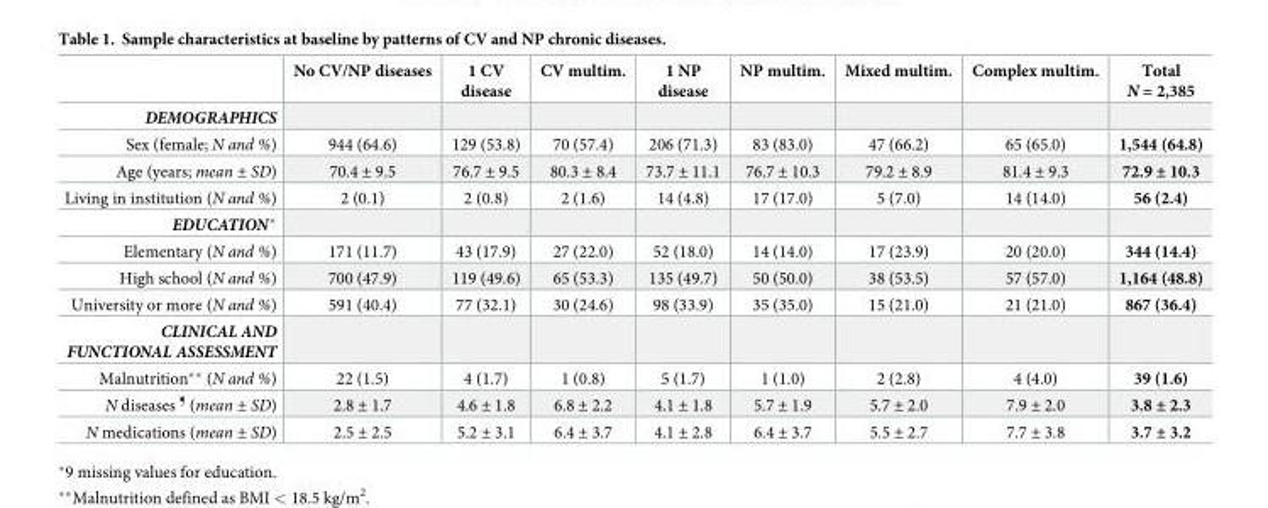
<table><thead><tr><td></td><td>No CV/NP diseases</td><td>1 CV disease</td><td>CV multim.</td><td>1 NP disease</td><td>NP multim.</td><td>Mixed multim.</td><td>Complex multim.</td><td>Total N = 2,385</td></tr></thead><tbody><tr><td colspan="9">DEMOGRAPHICS</td></tr><tr><td>Sex (female; N and %)</td><td>944 (64.6)</td><td>129 (53.8)</td><td>70 (57.4)</td><td>206 (71.3)</td><td>83 (83.0)</td><td>47 (66.2)</td><td>65 (65.0)</td><td>1,544 (64.8)</td></tr><tr><td>Age (years; mean ± SD)</td><td>70.4 ± 9.5</td><td>76.7 ± 9.5</td><td>80.3 ± 8.4</td><td>73.7 ± 11.1</td><td>76.7 ± 10.3</td><td>79.2 ± 8.9</td><td>81.4 ± 9.3</td><td>72.9 ± 10.3</td></tr><tr><td>Living in institution (N and %)</td><td>2 (0.1)</td><td>2 (0.8)</td><td>2 (1.6)</td><td>14 (4.8)</td><td>17 (17.0)</td><td>5 (7.0)</td><td>14 (14.0)</td><td>56 (2.4)</td></tr><tr><td colspan="9">EDUCATION*</td></tr><tr><td>Elementary (N and %)</td><td>171 (11.7)</td><td>43 (17.9)</td><td>27 (22.0)</td><td>52 (18.0)</td><td>14 (14.0)</td><td>17 (23.9)</td><td>20 (20.0)</td><td>344 (14.4)</td></tr><tr><td>High school (N and %)</td><td>700 (47.9)</td><td>119 (49.6)</td><td>65 (53.3)</td><td>135 (49.7)</td><td>50 (50.0)</td><td>38 (53.5)</td><td>57 (57.0)</td><td>1,164 (48.8)</td></tr><tr><td>University or more (N and %)</td><td>591 (40.4)</td><td>77 (32.1)</td><td>30 (24.6)</td><td>98 (33.9)</td><td>35 (35.0)</td><td>15 (21.0)</td><td>21 (21.0)</td><td>867 (36.4)</td></tr><tr><td colspan="9">CLINICAL AND FUNCTIONAL ASSESSMENT</td></tr><tr><td>Malnutrition** (N and %)</td><td>22 (1.5)</td><td>4 (1.7)</td><td>1 (0.8)</td><td>5 (1.7)</td><td>1 (1.0)</td><td>2 (2.8)</td><td>4 (4.0)</td><td>39 (1.6)</td></tr><tr><td>N diseases <sup>¶</sup> (mean ± SD)</td><td>2.8 ± 1.7</td><td>4.6 ± 1.8</td><td>6.8 ± 2.2</td><td>4.1 ± 1.8</td><td>5.7 ± 1.9</td><td>5.7 ± 2.0</td><td>7.9 ± 2.0</td><td>3.8 ± 2.3</td></tr><tr><td>N medications (mean ± SD)</td><td>2.5 ± 2.5</td><td>5.2 ± 3.1</td><td>6.4 ± 3.7</td><td>4.1 ± 2.8</td><td>6.4 ± 3.7</td><td>5.5 ± 2.7</td><td>7.7 ± 3.8</td><td>3.7 ± 3.2</td></tr></tbody></table>